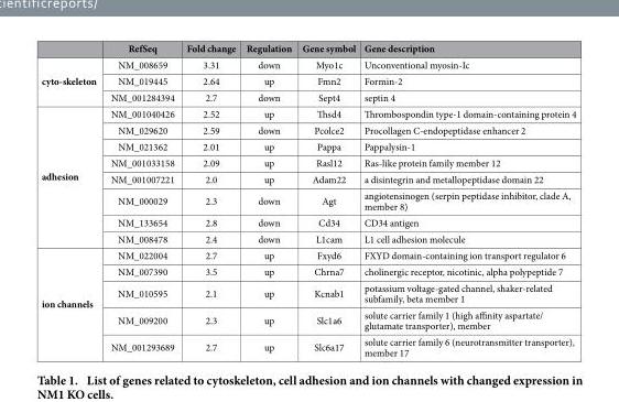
<table><thead><tr><td></td><td>RefSeq</td><td>Fold change</td><td>Regulation</td><td>Gene symbol</td><td>Gene description</td></tr></thead><tbody><tr><td rowspan="3">cyto-skeleton</td><td>NM_008659</td><td>3.31</td><td>down</td><td>Myo1c</td><td>Unconventional myosin-Ic</td></tr><tr><td>NM_019445</td><td>2.64</td><td>up</td><td>Fmn2</td><td>Formin-2</td></tr><tr><td>NM_001284394</td><td>2.7</td><td>down</td><td>Sept4</td><td>septin 4</td></tr><tr><td rowspan="8">adhesion</td><td>NM_001040426</td><td>2.52</td><td>up</td><td>Thsd4</td><td>Thrombospondin type-1 domain-containing protein 4</td></tr><tr><td>NM_029620</td><td>2.59</td><td>down</td><td>Pcolce2</td><td>Procollagen C-endopeptidase enhancer 2</td></tr><tr><td>NM_021362</td><td>2.01</td><td>up</td><td>Pappa</td><td>Pappalysin-1</td></tr><tr><td>NM_001033158</td><td>2.09</td><td>up</td><td>Rasl12</td><td>Ras-like protein family member 12</td></tr><tr><td>NM_001007221</td><td>2.0</td><td>up</td><td>Adam22</td><td>a disintegrin and metallopeptidase domain 22</td></tr><tr><td>NM_000029</td><td>2.3</td><td>down</td><td>Agt</td><td>angiotensinogen (serpin peptidase inhibitor, clade A, member 8)</td></tr><tr><td>NM_133654</td><td>2.8</td><td>down</td><td>Cd34</td><td>CD34 antigen</td></tr><tr><td>NM_008478</td><td>2.4</td><td>down</td><td>L1cam</td><td>L1 cell adhesion molecule</td></tr><tr><td rowspan="5">ion channels</td><td>NM_022004</td><td>2.7</td><td>up</td><td>Fxyd6</td><td>FXYD domain-containing ion transport regulator 6</td></tr><tr><td>NM_007390</td><td>3.5</td><td>up</td><td>Chrna7</td><td>cholinergic receptor, nicotinic, alpha polypeptide 7</td></tr><tr><td>NM_010595</td><td>2.1</td><td>up</td><td>Kcnab1</td><td>potassium voltage-gated channel, shaker-related subfamily, beta member 1</td></tr><tr><td>NM_009200</td><td>2.3</td><td>up</td><td>Slc1a6</td><td>solute carrier family 1 (high affinity aspartate/ glutamate transporter), member</td></tr><tr><td>NM_001293689</td><td>2.7</td><td>up</td><td>Slc6a17</td><td>solute carrier family 6 (neurotransmitter transporter), member 17</td></tr></tbody></table>